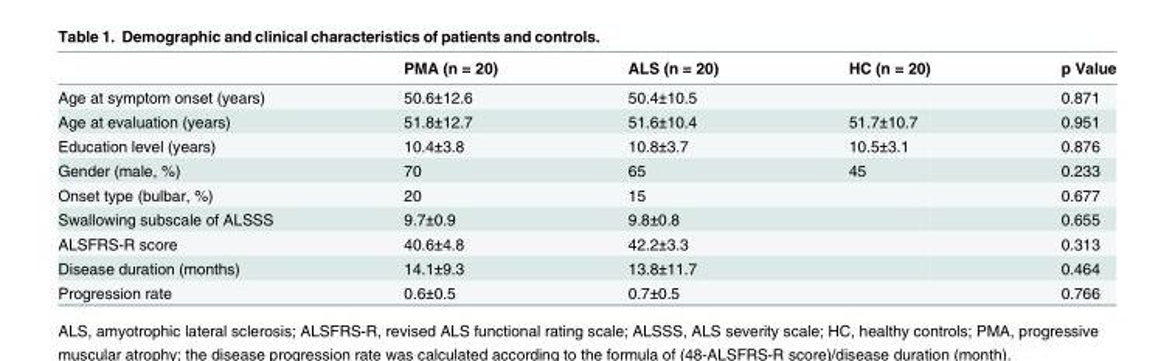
<table><thead><tr><td></td><td>PMA (n = 20)</td><td>ALS (n = 20)</td><td>HC (n = 20)</td><td>p Value</td></tr></thead><tbody><tr><td>Age at symptom onset (years)</td><td>50.6±12.6</td><td>50.4±10.5</td><td></td><td>0.871</td></tr><tr><td>Age at evaluation (years)</td><td>51.8±12.7</td><td>51.6±10.4</td><td>51.7±10.7</td><td>0.951</td></tr><tr><td>Education level (years)</td><td>10.4±3.8</td><td>10.8±3.7</td><td>10.5±3.1</td><td>0.876</td></tr><tr><td>Gender (male, %)</td><td>70</td><td>65</td><td>45</td><td>0.233</td></tr><tr><td>Onset type (bulbar, %)</td><td>20</td><td>15</td><td></td><td>0.677</td></tr><tr><td>Swallowing subscale of ALSSS</td><td>9.7±0.9</td><td>9.8±0.8</td><td></td><td>0.655</td></tr><tr><td>ALSFRS-R score</td><td>40.6±4.8</td><td>42.2±3.3</td><td></td><td>0.313</td></tr><tr><td>Disease duration (months)</td><td>14.1±9.3</td><td>13.8±11.7</td><td></td><td>0.464</td></tr><tr><td>Progression rate</td><td>0.6±0.5</td><td>0.7±0.5</td><td></td><td>0.766</td></tr></tbody></table>